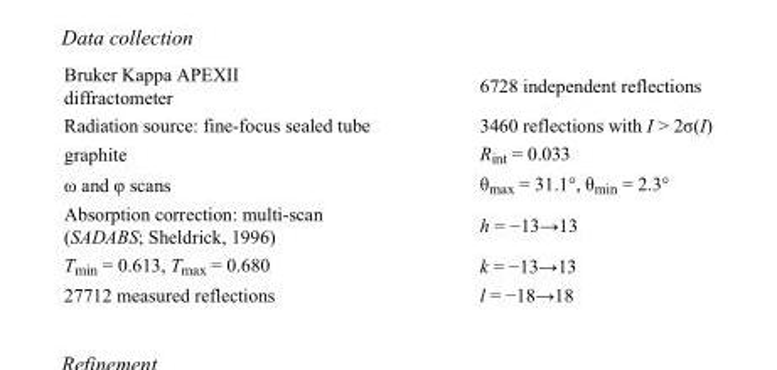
<table><tbody><tr><td>Bruker Kappa APEXII diffractometer</td><td>6728 independent reflections</td></tr><tr><td>Radiation source: fine-focus sealed tube</td><td>3460 reflections with I &gt; 2σ(I)</td></tr><tr><td>graphite</td><td>R<sub>int</sub> = 0.033</td></tr><tr><td>ω and φ scans</td><td>θ<sub>max</sub> = 31.1°, θ<sub>min</sub> = 2.3°</td></tr><tr><td>Absorption correction: multi-scan (SADABS; Sheldrick, 1996)</td><td>h = −13→13</td></tr><tr><td>T<sub>min</sub> = 0.613, T<sub>max</sub> = 0.680</td><td>k = −13→13</td></tr><tr><td>27712 measured reflections</td><td>l = −18→18</td></tr></tbody></table>